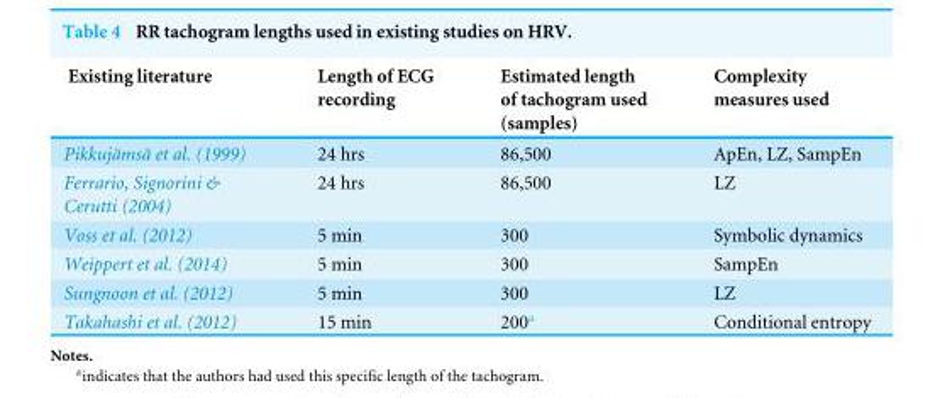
<table><thead><tr><td>Existing literature</td><td>Length of ECG recording</td><td>Estimated length of tachogram used (samples)</td><td>Complexity measures used</td></tr></thead><tbody><tr><td>Pikkujämsä et al. (1999)</td><td>24 hrs</td><td>86,500</td><td>ApEn, LZ, SampEn</td></tr><tr><td>Ferrario, Signorini &amp; Cerutti (2004)</td><td>24 hrs</td><td>86,500</td><td>LZ</td></tr><tr><td>Voss et al. (2012)</td><td>5 min</td><td>300</td><td>Symbolic dynamics</td></tr><tr><td>Weippert et al. (2014)</td><td>5 min</td><td>300</td><td>SampEn</td></tr><tr><td>Sungnoon et al. (2012)</td><td>5 min</td><td>300</td><td>LZ</td></tr><tr><td>Takahashi et al. (2012)</td><td>15 min</td><td>200<sup>a</sup></td><td>Conditional entropy</td></tr></tbody></table>